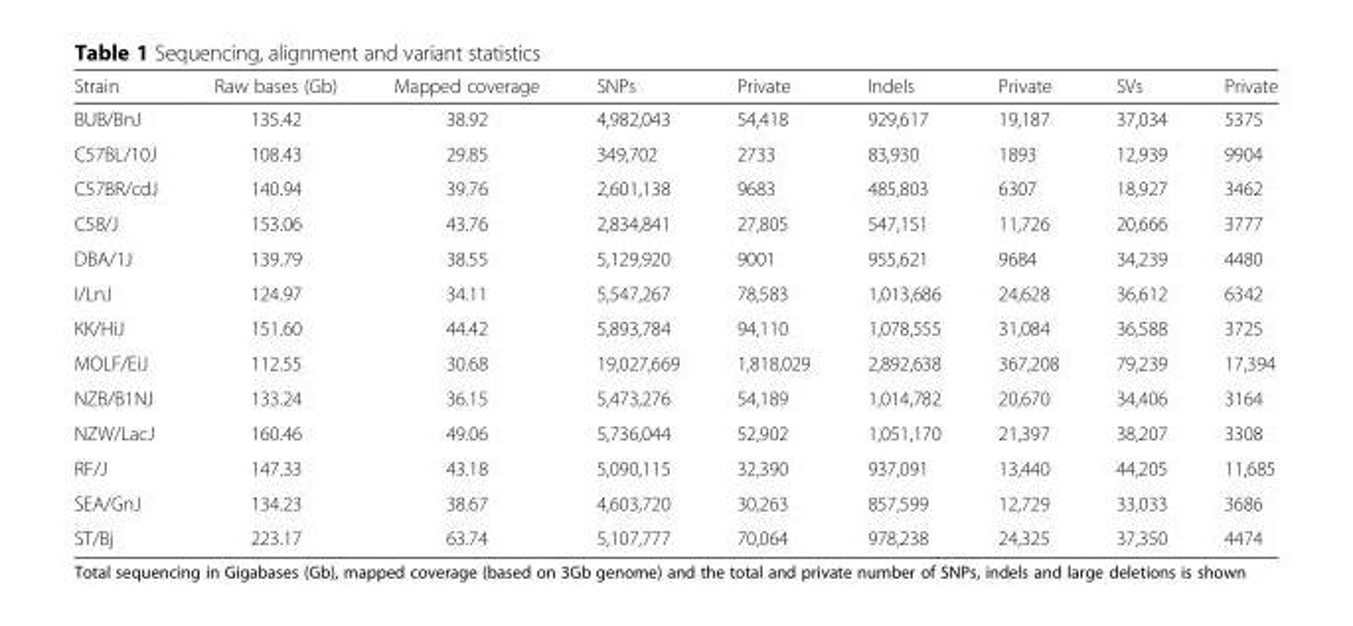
<table><thead><tr><td>Strain</td><td>Raw bases (Gb)</td><td>Mapped coverage</td><td>SNPs</td><td>Private</td><td>Indels</td><td>Private</td><td>SVs</td><td>Private</td></tr></thead><tbody><tr><td>BUB/BnJ</td><td>135.42</td><td>38.92</td><td>4,982,043</td><td>54,418</td><td>929,617</td><td>19,187</td><td>37,034</td><td>5375</td></tr><tr><td>C57BL/10J</td><td>108.43</td><td>29.85</td><td>349,702</td><td>2733</td><td>83,930</td><td>1893</td><td>12,939</td><td>9904</td></tr><tr><td>C57BR/cdJ</td><td>140.94</td><td>39.76</td><td>2,601,138</td><td>9683</td><td>485,803</td><td>6307</td><td>18,927</td><td>3462</td></tr><tr><td>C58/J</td><td>153.06</td><td>43.76</td><td>2,834,841</td><td>27,805</td><td>547,151</td><td>11,726</td><td>20,666</td><td>3777</td></tr><tr><td>DBA/1J</td><td>139.79</td><td>38.55</td><td>5,129,920</td><td>9001</td><td>955,621</td><td>9684</td><td>34,239</td><td>4480</td></tr><tr><td>I/LnJ</td><td>124.97</td><td>34.11</td><td>5,547,267</td><td>78,583</td><td>1,013,686</td><td>24,628</td><td>36,612</td><td>6342</td></tr><tr><td>KK/HiJ</td><td>151.60</td><td>44.42</td><td>5,893,784</td><td>94,110</td><td>1,078,555</td><td>31,084</td><td>36,588</td><td>3725</td></tr><tr><td>MOLF/EiJ</td><td>112.55</td><td>30.68</td><td>19,027,669</td><td>1,818,029</td><td>2,892,638</td><td>367,208</td><td>79,239</td><td>17,394</td></tr><tr><td>NZB/B1NJ</td><td>133.24</td><td>36.15</td><td>5,473,276</td><td>54,189</td><td>1,014,782</td><td>20,670</td><td>34,406</td><td>3164</td></tr><tr><td>NZW/LacJ</td><td>160.46</td><td>49.06</td><td>5,736,044</td><td>52,902</td><td>1,051,170</td><td>21,397</td><td>38,207</td><td>3308</td></tr><tr><td>RF/J</td><td>147.33</td><td>43.18</td><td>5,090,115</td><td>32,390</td><td>937,091</td><td>13,440</td><td>44,205</td><td>11,685</td></tr><tr><td>SEA/GnJ</td><td>134.23</td><td>38.67</td><td>4,603,720</td><td>30,263</td><td>857,599</td><td>12,729</td><td>33,033</td><td>3686</td></tr><tr><td>ST/Bj</td><td>223.17</td><td>63.74</td><td>5,107,777</td><td>70,064</td><td>978,238</td><td>24,325</td><td>37,350</td><td>4474</td></tr></tbody></table>